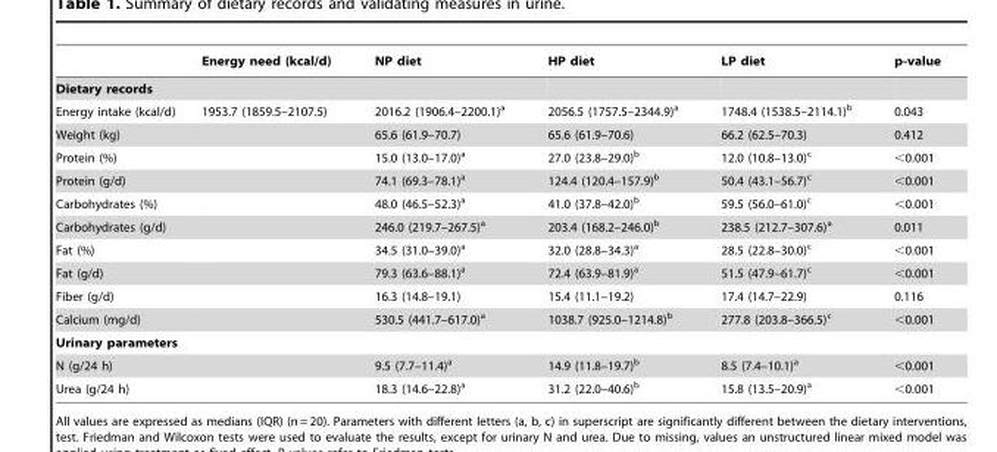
<table><thead><tr><td></td><td>Energy need (kcal/d)</td><td>NP diet</td><td>HP diet</td><td>LP diet</td><td>p-value</td></tr></thead><tbody><tr><td colspan="6">Dietary records</td></tr><tr><td>Energy intake (kcal/d)</td><td>1953.7 (1859.5–2107.5)</td><td>2016.2 (1906.4–2200.1)<sup>a</sup></td><td>2056.5 (1757.5–2344.9)<sup>a</sup></td><td>1748.4 (1538.5–2114.1)<sup>b</sup></td><td>0.043</td></tr><tr><td>Weight (kg)</td><td></td><td>65.6 (61.9–70.7)</td><td>65.6 (61.9–70.6)</td><td>66.2 (62.5–70.3)</td><td>0.412</td></tr><tr><td>Protein (%)</td><td></td><td>15.0 (13.0–17.0)<sup>a</sup></td><td>27.0 (23.8–29.0)<sup>b</sup></td><td>12.0 (10.8–13.0)<sup>c</sup></td><td>&lt;0.001</td></tr><tr><td>Protein (g/d)</td><td></td><td>74.1 (69.3–78.1)<sup>a</sup></td><td>124.4 (120.4–157.9)<sup>b</sup></td><td>50.4 (43.1–56.7)<sup>c</sup></td><td>&lt;0.001</td></tr><tr><td>Carbohydrates (%)</td><td></td><td>48.0 (46.5–52.3)<sup>a</sup></td><td>41.0 (37.8–42.0)<sup>b</sup></td><td>59.5 (56.0–61.0)<sup>c</sup></td><td>&lt;0.001</td></tr><tr><td>Carbohydrates (g/d)</td><td></td><td>246.0 (219.7–267.5)<sup>a</sup></td><td>203.4 (168.2–246.0)<sup>b</sup></td><td>238.5 (212.7–307.6)<sup>a</sup></td><td>0.011</td></tr><tr><td>Fat (%)</td><td></td><td>34.5 (31.0–39.0)<sup>a</sup></td><td>32.0 (28.8–34.3)<sup>a</sup></td><td>28.5 (22.8–30.0)<sup>c</sup></td><td>&lt;0.001</td></tr><tr><td>Fat (g/d)</td><td></td><td>79.3 (63.6–88.1)<sup>a</sup></td><td>72.4 (63.9–81.9)<sup>a</sup></td><td>51.5 (47.9–61.7)<sup>c</sup></td><td>&lt;0.001</td></tr><tr><td>Fiber (g/d)</td><td></td><td>16.3 (14.8–19.1)</td><td>15.4 (11.1–19.2)</td><td>17.4 (14.7–22.9)</td><td>0.116</td></tr><tr><td>Calcium (mg/d)</td><td></td><td>530.5 (441.7–617.0)<sup>a</sup></td><td>1038.7 (925.0–1214.8)<sup>b</sup></td><td>277.8 (203.8–366.5)<sup>c</sup></td><td>&lt;0.001</td></tr><tr><td colspan="6">Urinary parameters</td></tr><tr><td>N (g/24 h)</td><td></td><td>9.5 (7.7–11.4)<sup>a</sup></td><td>14.9 (11.8–19.7)<sup>b</sup></td><td>8.5 (7.4–10.1)<sup>a</sup></td><td>&lt;0.001</td></tr><tr><td>Urea (g/24 h)</td><td></td><td>18.3 (14.6–22.8)<sup>a</sup></td><td>31.2 (22.0–40.6)<sup>b</sup></td><td>15.8 (13.5–20.9)<sup>a</sup></td><td>&lt;0.001</td></tr></tbody></table>